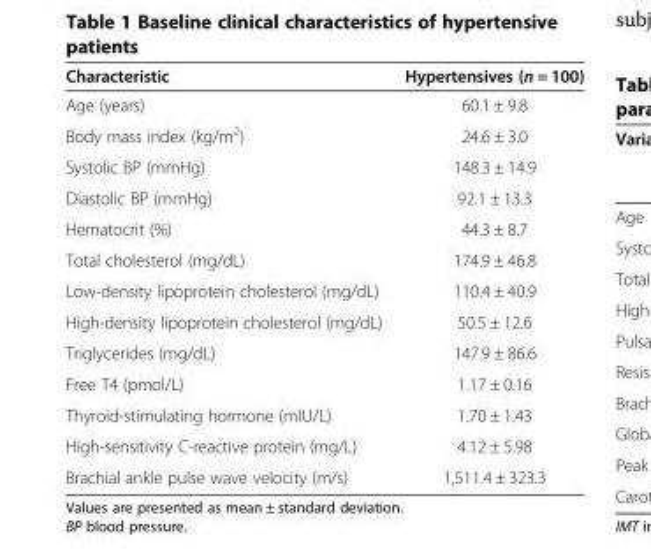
<table><thead><tr><td>Characteristic</td><td>Hypertensives (n = 100)</td></tr></thead><tbody><tr><td>Age (years)</td><td>60.1 ± 9.8</td></tr><tr><td>Body mass index (kg/m<sup>2</sup>)</td><td>24.6 ± 3.0</td></tr><tr><td>Systolic BP (mmHg)</td><td>148.3 ± 14.9</td></tr><tr><td>Diastolic BP (mmHg)</td><td>92.1 ± 13.3</td></tr><tr><td>Hematocrit (%)</td><td>44.3 ± 8.7</td></tr><tr><td>Total cholesterol (mg/dL)</td><td>174.9 ± 46.8</td></tr><tr><td>Low-density lipoprotein cholesterol (mg/dL)</td><td>110.4 ± 40.9</td></tr><tr><td>High-density lipoprotein cholesterol (mg/dL)</td><td>50.5 ± 12.6</td></tr><tr><td>Triglycerides (mg/dL)</td><td>147.9 ± 86.6</td></tr><tr><td>Free T4 (pmol/L)</td><td>1.17 ± 0.16</td></tr><tr><td>Thyroid-stimulating hormone (mIU/L)</td><td>1.70 ± 1.43</td></tr><tr><td>High-sensitivity C-reactive protein (mg/L)</td><td>4.12 ± 5.98</td></tr><tr><td>Brachial ankle pulse wave velocity (m/s)</td><td>1,511.4 ± 323.3</td></tr></tbody></table>